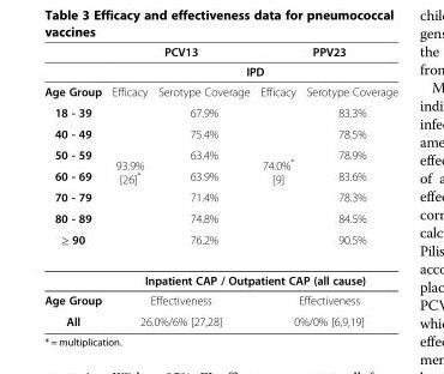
<table><thead><tr><td rowspan="3">Age Group</td><td colspan="2">PCV13</td><td colspan="2">PPV23</td></tr><tr><td colspan="4">IPD</td></tr><tr><td>Efficacy</td><td>Serotype Coverage</td><td>Efficacy</td><td>Serotype Coverage</td></tr></thead><tbody><tr><td>18 - 39</td><td rowspan="7">93.9% [26]*</td><td>67.9%</td><td rowspan="7">74.0%* [9]</td><td>83.3%</td></tr><tr><td>40 - 49</td><td>75.4%</td><td>78.5%</td></tr><tr><td>50 - 59</td><td>63.4%</td><td>78.9%</td></tr><tr><td>60 - 69</td><td>63.9%</td><td>83.6%</td></tr><tr><td>70 - 79</td><td>71.4%</td><td>78.3%</td></tr><tr><td>80 - 89</td><td>74.8%</td><td>84.5%</td></tr><tr><td rowspan="2">≥ 90</td><td>76.2%</td><td>90.5%</td></tr><tr><td colspan="4">Inpatient CAP / Outpatient CAP (all cause)</td></tr><tr><td>Age Group</td><td colspan="2">Effectiveness</td><td colspan="2">Effectiveness</td></tr><tr><td>All</td><td colspan="2">26.0%/6% [27,28]</td><td colspan="2">0%/0% [6,9,19]</td></tr></tbody></table>